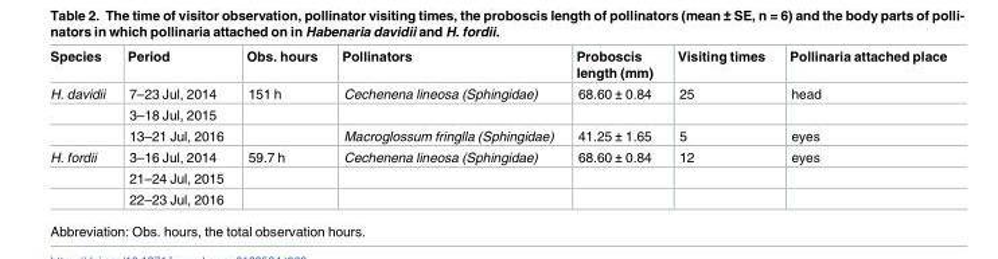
<table><thead><tr><td>Species</td><td>Period</td><td>Obs. hours</td><td>Pollinators</td><td>Proboscis length (mm)</td><td>Visiting times</td><td>Pollinaria attached place</td></tr></thead><tbody><tr><td rowspan="3">H. davidii</td><td>7–23 Jul, 2014</td><td>151 h</td><td>Cechenena lineosa (Sphingidae)</td><td>68.60 ± 0.84</td><td>25</td><td>head</td></tr><tr><td>3–18 Jul, 2015</td><td></td><td></td><td></td><td></td><td></td></tr><tr><td>13–21 Jul, 2016</td><td></td><td>Macroglossum fringlla (Sphingidae)</td><td>41.25 ± 1.65</td><td>5</td><td>eyes</td></tr><tr><td rowspan="3">H. fordii</td><td>3–16 Jul, 2014</td><td>59.7 h</td><td>Cechenena lineosa (Sphingidae)</td><td>68.60 ± 0.84</td><td>12</td><td>eyes</td></tr><tr><td>21–24 Jul, 2015</td><td></td><td></td><td></td><td></td><td></td></tr><tr><td>22–23 Jul, 2016</td><td></td><td></td><td></td><td></td><td></td></tr></tbody></table>